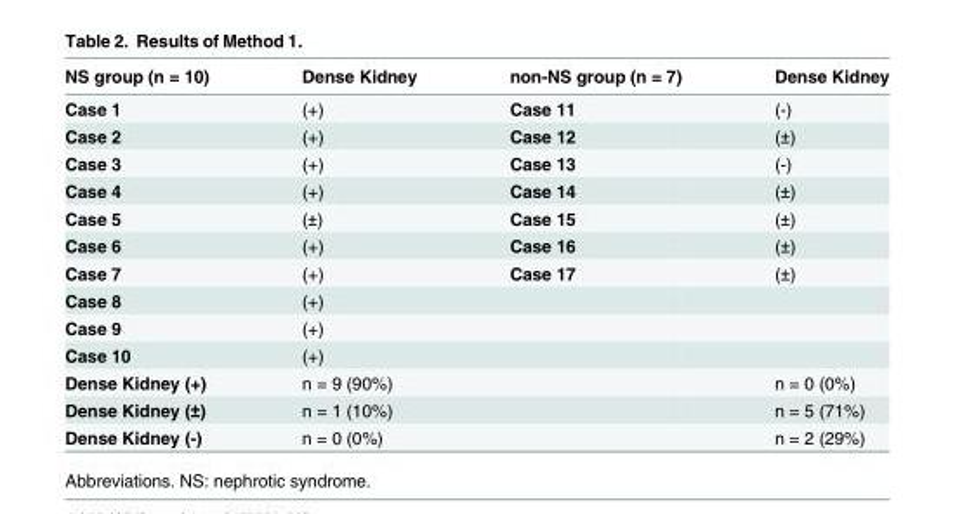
<table><thead><tr><td>NS group (n = 10)</td><td>Dense Kidney</td><td>non-NS group (n = 7)</td><td>Dense Kidney</td></tr></thead><tbody><tr><td>Case 1</td><td>(+)</td><td>Case 11</td><td>(-)</td></tr><tr><td>Case 2</td><td>(+)</td><td>Case 12</td><td>(±)</td></tr><tr><td>Case 3</td><td>(+)</td><td>Case 13</td><td>(-)</td></tr><tr><td>Case 4</td><td>(+)</td><td>Case 14</td><td>(±)</td></tr><tr><td>Case 5</td><td>(±)</td><td>Case 15</td><td>(±)</td></tr><tr><td>Case 6</td><td>(+)</td><td>Case 16</td><td>(±)</td></tr><tr><td>Case 7</td><td>(+)</td><td>Case 17</td><td>(±)</td></tr><tr><td>Case 8</td><td>(+)</td><td></td><td></td></tr><tr><td>Case 9</td><td>(+)</td><td></td><td></td></tr><tr><td>Case 10</td><td>(+)</td><td></td><td></td></tr><tr><td>Dense Kidney (+)</td><td>n = 9 (90%)</td><td></td><td>n = 0 (0%)</td></tr><tr><td>Dense Kidney (±)</td><td>n = 1 (10%)</td><td></td><td>n = 5 (71%)</td></tr><tr><td>Dense Kidney (-)</td><td>n = 0 (0%)</td><td></td><td>n = 2 (29%)</td></tr></tbody></table>